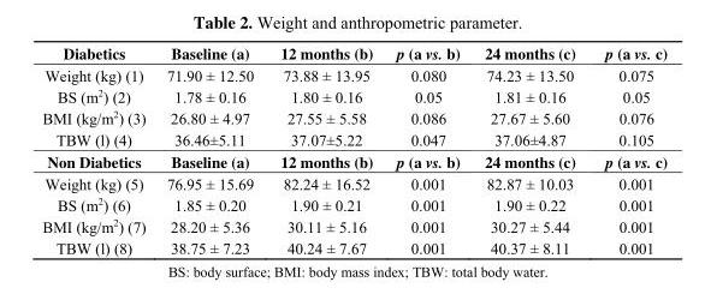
<table><tbody><tr><td>Diabetics</td><td>Baseline (a)</td><td>12 months (b)</td><td>p (a vs. b)</td><td>24 months (c)</td><td>p (a vs. c)</td></tr><tr><td>Weight (kg) (1)</td><td>71.90 ± 12.50</td><td>73.88 ± 13.95</td><td>0.080</td><td>74.23 ± 13.50</td><td>0.075</td></tr><tr><td>BS (m<sup>2</sup>) (2)</td><td>1.78 ± 0.16</td><td>1.80 ± 0.16</td><td>0.05</td><td>1.81 ± 0.16</td><td>0.05</td></tr><tr><td>BMI (kg/m<sup>2</sup>) (3)</td><td>26.80 ± 4.97</td><td>27.55 ± 5.58</td><td>0.086</td><td>27.67 ± 5.60</td><td>0.076</td></tr><tr><td>TBW (l) (4)</td><td>36.46±5.11</td><td>37.07±5.22</td><td>0.047</td><td>37.06±4.87</td><td>0.105</td></tr><tr><td>Non Diabetics</td><td>Baseline (a)</td><td>12 months (b)</td><td>p (a vs. b)</td><td>24 months (c)</td><td>p (a vs. c)</td></tr><tr><td>Weight (kg) (5)</td><td>76.95 ± 15.69</td><td>82.24 ± 16.52</td><td>0.001</td><td>82.87 ± 10.03</td><td>0.001</td></tr><tr><td>BS (m<sup>2</sup>) (6)</td><td>1.85 ± 0.20</td><td>1.90 ± 0.21</td><td>0.001</td><td>1.90 ± 0.22</td><td>0.001</td></tr><tr><td>BMI (kg/m<sup>2</sup>) (7)</td><td>28.20 ± 5.36</td><td>30.11 ± 5.16</td><td>0.001</td><td>30.27 ± 5.44</td><td>0.001</td></tr><tr><td>TBW (l) (8)</td><td>38.75 ± 7.23</td><td>40.24 ± 7.67</td><td>0.001</td><td>40.37 ± 8.11</td><td>0.001</td></tr></tbody></table>